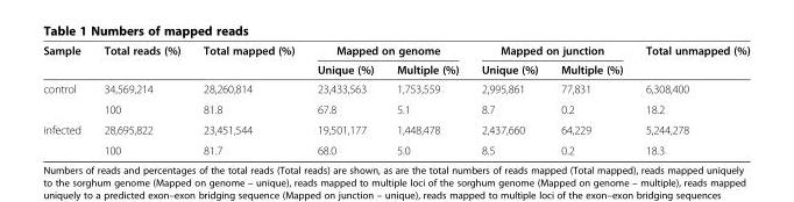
<table><thead><tr><td rowspan="2">Sample</td><td rowspan="2">Total reads (%)</td><td rowspan="2">Total mapped (%)</td><td colspan="2">Mapped on genome</td><td colspan="2">Mapped on junction</td><td rowspan="2">Total unmapped (%)</td></tr><tr><td>Unique (%)</td><td>Multiple (%)</td><td>Unique (%)</td><td>Multiple (%)</td></tr></thead><tbody><tr><td rowspan="2">control</td><td>34,569,214</td><td>28,260,814</td><td>23,433,563</td><td>1,753,559</td><td>2,995,861</td><td>77,831</td><td>6,308,400</td></tr><tr><td>100</td><td>81.8</td><td>67.8</td><td>5.1</td><td>8.7</td><td>0.2</td><td>18.2</td></tr><tr><td rowspan="2">infected</td><td>28,695,822</td><td>23,451,544</td><td>19,501,177</td><td>1,448,478</td><td>2,437,660</td><td>64,229</td><td>5,244,278</td></tr><tr><td>100</td><td>81.7</td><td>68.0</td><td>5.0</td><td>8.5</td><td>0.2</td><td>18.3</td></tr></tbody></table>